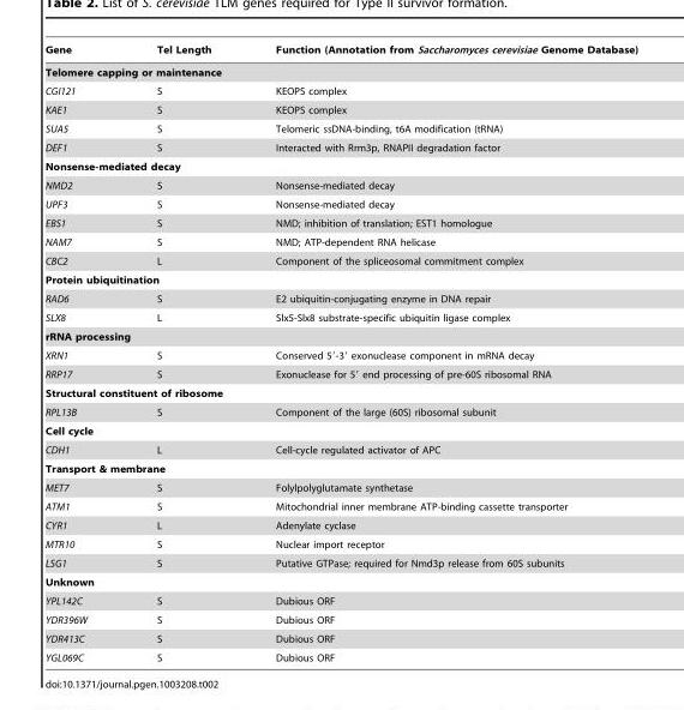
<table><thead><tr><td>Gene</td><td>Tel Length</td><td>Function (Annotation from Saccharomyces cerevisiae Genome Database)</td></tr></thead><tbody><tr><td colspan="3">Telomere capping or maintenance</td></tr><tr><td>CGI121</td><td>S</td><td>KEOPS complex</td></tr><tr><td>KAE1</td><td>S</td><td>KEOPS complex</td></tr><tr><td>SUA5</td><td>S</td><td>Telomeric ssDNA-binding, t6A modification (tRNA)</td></tr><tr><td>DEF1</td><td>S</td><td>Interacted with Rrm3p, RNAPII degradation factor</td></tr><tr><td colspan="3">Nonsense-mediated decay</td></tr><tr><td>NMD2</td><td>S</td><td>Nonsense-mediated decay</td></tr><tr><td>UPF3</td><td>S</td><td>Nonsense-mediated decay</td></tr><tr><td>EBS1</td><td>S</td><td>NMD; inhibition of translation; EST1 homologue</td></tr><tr><td>NAM7</td><td>S</td><td>NMD; ATP-dependent RNA helicase</td></tr><tr><td>CBC2</td><td>L</td><td>Component of the spliceosomal commitment complex</td></tr><tr><td colspan="3">Protein ubiquitination</td></tr><tr><td>RAD6</td><td>S</td><td>E2 ubiquitin-conjugating enzyme in DNA repair</td></tr><tr><td>SLX8</td><td>L</td><td>Slx5-Slx8 substrate-specific ubiquitin ligase complex</td></tr><tr><td colspan="3">rRNA processing</td></tr><tr><td>XRN1</td><td>S</td><td>Conserved 5′-3′ exonuclease component in mRNA decay</td></tr><tr><td>RRP17</td><td>S</td><td>Exonuclease for 5′ end processing of pre-60S ribosomal RNA</td></tr><tr><td colspan="3">Structural constituent of ribosome</td></tr><tr><td>RPL13B</td><td>S</td><td>Component of the large (60S) ribosomal subunit</td></tr><tr><td colspan="3">Cell cycle</td></tr><tr><td>CDH1</td><td>L</td><td>Cell-cycle regulated activator of APC</td></tr><tr><td colspan="3">Transport &amp; membrane</td></tr><tr><td>MET7</td><td>S</td><td>Folylpolyglutamate synthetase</td></tr><tr><td>ATM1</td><td>S</td><td>Mitochondrial inner membrane ATP-binding cassette transporter</td></tr><tr><td>CYR1</td><td>L</td><td>Adenylate cyclase</td></tr><tr><td>MTR10</td><td>S</td><td>Nuclear import receptor</td></tr><tr><td>LSG1</td><td>S</td><td>Putative GTPase; required for Nmd3p release from 60S subunits</td></tr><tr><td colspan="3">Unknown</td></tr><tr><td>YPL142C</td><td>S</td><td>Dubious ORF</td></tr><tr><td>YDR396W</td><td>S</td><td>Dubious ORF</td></tr><tr><td>YDR413C</td><td>S</td><td>Dubious ORF</td></tr><tr><td>YGL069C</td><td>S</td><td>Dubious ORF</td></tr></tbody></table>